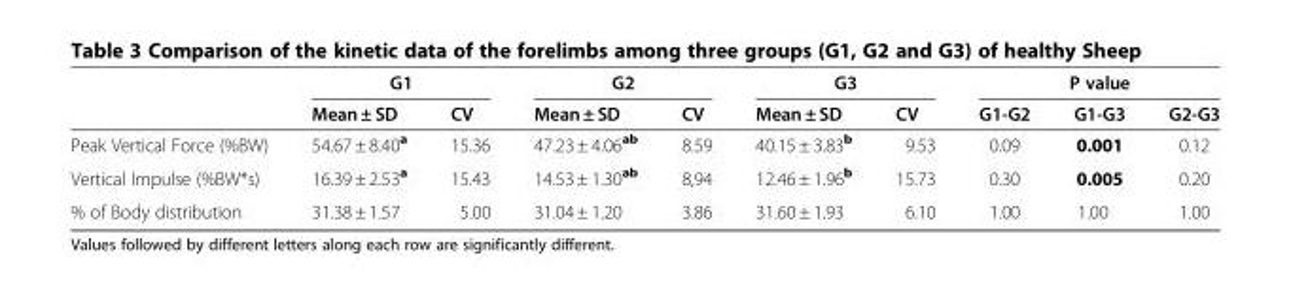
<table><thead><tr><td rowspan="2"></td><td colspan="2">G1</td><td colspan="2">G2</td><td colspan="2">G3</td><td colspan="3">P value</td></tr><tr><td>Mean ± SD</td><td>CV</td><td>Mean ± SD</td><td>CV</td><td>Mean ± SD</td><td>CV</td><td>G1-G2</td><td>G1-G3</td><td>G2-G3</td></tr></thead><tbody><tr><td>Peak Vertical Force (%BW)</td><td>54.67 ± 8.40<sup>a</sup></td><td>15.36</td><td>47.23 ± 4.06<sup>ab</sup></td><td>8.59</td><td>40.15 ± 3.83<sup>b</sup></td><td>9.53</td><td>0.09</td><td>0.001</td><td>0.12</td></tr><tr><td>Vertical Impulse (%BW*s)</td><td>16.39 ± 2.53<sup>a</sup></td><td>15.43</td><td>14.53 ± 1.30<sup>ab</sup></td><td>8,94</td><td>12.46 ± 1.96<sup>b</sup></td><td>15.73</td><td>0.30</td><td>0.005</td><td>0.20</td></tr><tr><td>% of Body distribution</td><td>31.38 ± 1.57</td><td>5.00</td><td>31.04 ± 1.20</td><td>3.86</td><td>31.60 ± 1.93</td><td>6.10</td><td>1.00</td><td>1.00</td><td>1.00</td></tr></tbody></table>